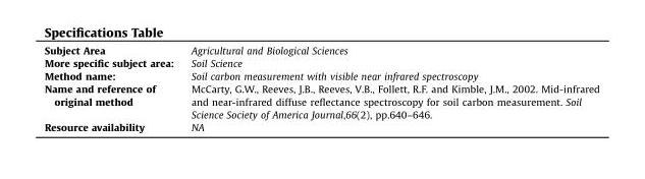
<table><tbody><tr><td>Subject Area</td><td>Agricultural and Biological Sciences</td></tr><tr><td>More specific subject area:</td><td>Soil Science</td></tr><tr><td>Method name:</td><td>Soil carbon measurement with visible near infrared spectroscopy</td></tr><tr><td>Name and reference of original method</td><td>McCarty, G.W., Reeves, J.B., Reeves, V.B., Follett, R.F. and Kimble, J.M., 2002. Mid-infrared and near-infrared diffuse reflectance spectroscopy for soil carbon measurement. Soil Science Society of America Journal,66(2), pp.640–646.</td></tr><tr><td>Resource availability</td><td>NA</td></tr></tbody></table>